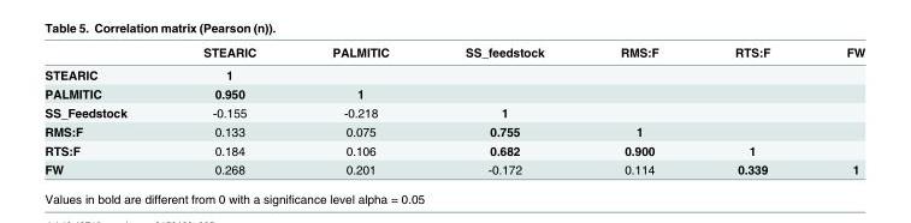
<table><thead><tr><td></td><td>STEARIC</td><td>PALMITIC</td><td>SS_feedstock</td><td>RMS:F</td><td>RTS:F</td><td>FW</td></tr></thead><tbody><tr><td>STEARIC</td><td>1</td><td></td><td></td><td></td><td></td><td></td></tr><tr><td>PALMITIC</td><td>0.950</td><td>1</td><td></td><td></td><td></td><td></td></tr><tr><td>SS_Feedstock</td><td>-0.155</td><td>-0.218</td><td>1</td><td></td><td></td><td></td></tr><tr><td>RMS:F</td><td>0.133</td><td>0.075</td><td>0.755</td><td>1</td><td></td><td></td></tr><tr><td>RTS:F</td><td>0.184</td><td>0.106</td><td>0.682</td><td>0.900</td><td>1</td><td></td></tr><tr><td>FW</td><td>0.268</td><td>0.201</td><td>-0.172</td><td>0.114</td><td>0.339</td><td>1</td></tr></tbody></table>